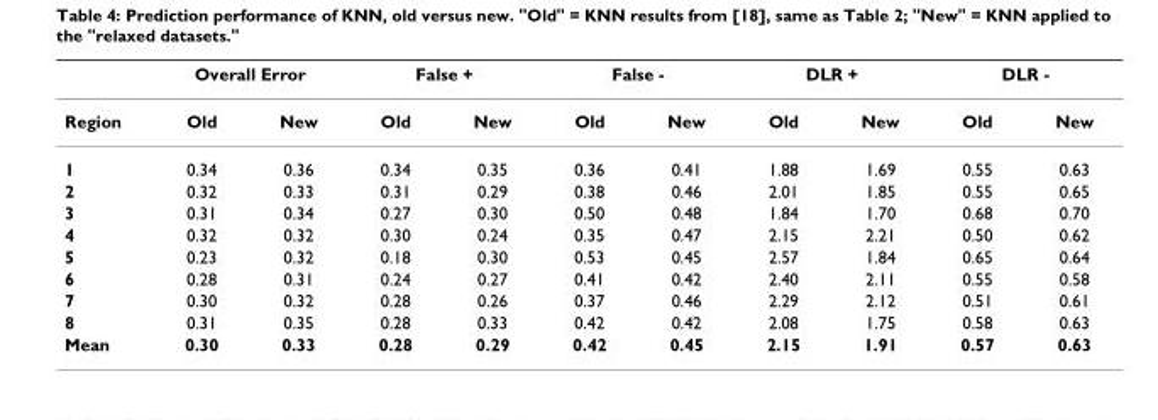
<table><thead><tr><td rowspan="2">Region</td><td colspan="2">Overall Error</td><td colspan="2">False +</td><td colspan="2">False -</td><td colspan="2">DLR +</td><td colspan="2">DLR -</td></tr><tr><td>Old</td><td>New</td><td>Old</td><td>New</td><td>Old</td><td>New</td><td>Old</td><td>New</td><td>Old</td><td>New</td></tr></thead><tbody><tr><td>1</td><td>0.34</td><td>0.36</td><td>0.34</td><td>0.35</td><td>0.36</td><td>0.41</td><td>1.88</td><td>1.69</td><td>0.55</td><td>0.63</td></tr><tr><td>2</td><td>0.32</td><td>0.33</td><td>0.31</td><td>0.29</td><td>0.38</td><td>0.46</td><td>2.01</td><td>1.85</td><td>0.55</td><td>0.65</td></tr><tr><td>3</td><td>0.31</td><td>0.34</td><td>0.27</td><td>0.30</td><td>0.50</td><td>0.48</td><td>1.84</td><td>1.70</td><td>0.68</td><td>0.70</td></tr><tr><td>4</td><td>0.32</td><td>0.32</td><td>0.30</td><td>0.24</td><td>0.35</td><td>0.47</td><td>2.15</td><td>2.21</td><td>0.50</td><td>0.62</td></tr><tr><td>5</td><td>0.23</td><td>0.32</td><td>0.18</td><td>0.30</td><td>0.53</td><td>0.45</td><td>2.57</td><td>1.84</td><td>0.65</td><td>0.64</td></tr><tr><td>6</td><td>0.28</td><td>0.31</td><td>0.24</td><td>0.27</td><td>0.41</td><td>0.42</td><td>2.40</td><td>2.11</td><td>0.55</td><td>0.58</td></tr><tr><td>7</td><td>0.30</td><td>0.32</td><td>0.28</td><td>0.26</td><td>0.37</td><td>0.46</td><td>2.29</td><td>2.12</td><td>0.51</td><td>0.61</td></tr><tr><td>8</td><td>0.31</td><td>0.35</td><td>0.28</td><td>0.33</td><td>0.42</td><td>0.42</td><td>2.08</td><td>1.75</td><td>0.58</td><td>0.63</td></tr><tr><td>Mean</td><td>0.30</td><td>0.33</td><td>0.28</td><td>0.29</td><td>0.42</td><td>0.45</td><td>2.15</td><td>1.91</td><td>0.57</td><td>0.63</td></tr></tbody></table>